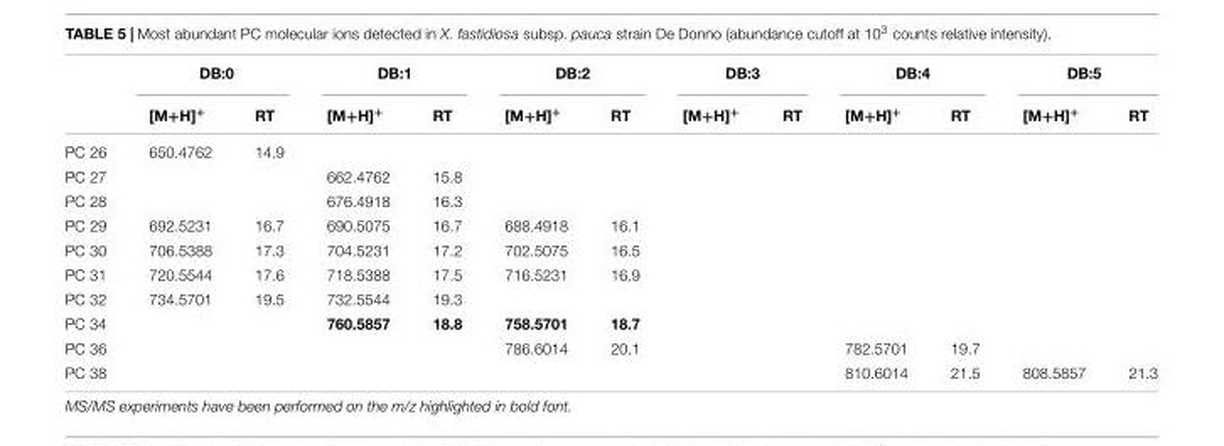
<table><thead><tr><td rowspan="2"></td><td colspan="2">DB:0</td><td colspan="2">DB:1</td><td colspan="2">DB:2</td><td colspan="2">DB:3</td><td colspan="2">DB:4</td><td colspan="2">DB:5</td></tr><tr><td>[M+H]<sup>+</sup></td><td>RT</td><td>[M+H]<sup>+</sup></td><td>RT</td><td>[M+H]<sup>+</sup></td><td>RT</td><td>[M+H]<sup>+</sup></td><td>RT</td><td>[M+H]<sup>+</sup></td><td>RT</td><td>[M+H]<sup>+</sup></td><td>RT</td></tr></thead><tbody><tr><td>PC 26</td><td>650.4762</td><td>14.9</td><td></td><td></td><td></td><td></td><td></td><td></td><td></td><td></td><td></td><td></td></tr><tr><td>PC 27</td><td></td><td></td><td>662.4762</td><td>15.8</td><td></td><td></td><td></td><td></td><td></td><td></td><td></td><td></td></tr><tr><td>PC 28</td><td></td><td></td><td>676.4918</td><td>16.3</td><td></td><td></td><td></td><td></td><td></td><td></td><td></td><td></td></tr><tr><td>PC 29</td><td>692.5231</td><td>16.7</td><td>690.5075</td><td>16.7</td><td>688.4918</td><td>16.1</td><td></td><td></td><td></td><td></td><td></td><td></td></tr><tr><td>PC 30</td><td>706.5388</td><td>17.3</td><td>704.5231</td><td>17.2</td><td>702.5075</td><td>16.5</td><td></td><td></td><td></td><td></td><td></td><td></td></tr><tr><td>PC 31</td><td>720.5544</td><td>17.6</td><td>718.5388</td><td>17.5</td><td>716.5231</td><td>16.9</td><td></td><td></td><td></td><td></td><td></td><td></td></tr><tr><td>PC 32</td><td>734.5701</td><td>19.5</td><td>732.5544</td><td>19.3</td><td></td><td></td><td></td><td></td><td></td><td></td><td></td><td></td></tr><tr><td>PC 34</td><td></td><td></td><td>760.5857</td><td>18.8</td><td>758.5701</td><td>18.7</td><td></td><td></td><td></td><td></td><td></td><td></td></tr><tr><td>PC 36</td><td></td><td></td><td></td><td></td><td>786.6014</td><td>20.1</td><td></td><td></td><td>782.5701</td><td>19.7</td><td></td><td></td></tr><tr><td>PC 38</td><td></td><td></td><td></td><td></td><td></td><td></td><td></td><td></td><td>810.6014</td><td>21.5</td><td>808.5857</td><td>21.3</td></tr></tbody></table>